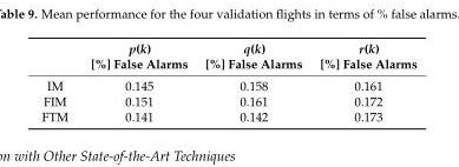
<table><thead><tr><td></td><td>p(k) [%] False Alarms</td><td>q(k) [%] False Alarms</td><td>r(k) [%] False Alarms</td></tr></thead><tbody><tr><td>IM</td><td>0.145</td><td>0.158</td><td>0.161</td></tr><tr><td>FIM</td><td>0.151</td><td>0.161</td><td>0.172</td></tr><tr><td>FTM</td><td>0.141</td><td>0.142</td><td>0.173</td></tr></tbody></table>